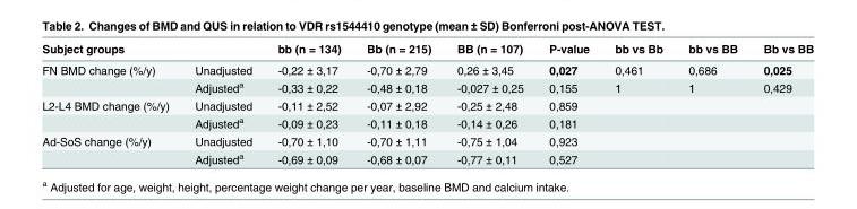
<table><thead><tr><td>Subject groups</td><td></td><td>bb (n = 134)</td><td>Bb (n = 215)</td><td>BB (n = 107)</td><td>P-value</td><td>bb vs Bb</td><td>bb vs BB</td><td>Bb vs BB</td></tr></thead><tbody><tr><td rowspan="2">FN BMD change (%/y)</td><td>Unadjusted</td><td>-0,22 ± 3,17</td><td>-0,70 ± 2,79</td><td>0,26 ± 3,45</td><td>0,027</td><td>0,461</td><td>0,686</td><td>0,025</td></tr><tr><td>Adjusted<sup>a</sup></td><td>-0,33 ± 0,22</td><td>-0,48 ± 0,18</td><td>-0,027 ± 0,25</td><td>0,155</td><td>1</td><td>1</td><td>0,429</td></tr><tr><td rowspan="2">L2-L4 BMD change (%/y)</td><td>Unadjusted</td><td>-0,11 ± 2,52</td><td>-0,07 ± 2,92</td><td>-0,25 ± 2,48</td><td>0,859</td><td></td><td></td><td></td></tr><tr><td>Adjusted<sup>a</sup></td><td>-0,09 ± 0,23</td><td>-0,11 ± 0,18</td><td>-0,14 ± 0,26</td><td>0,181</td><td></td><td></td><td></td></tr><tr><td rowspan="2">Ad-SoS change (%/y)</td><td>Unadjusted</td><td>-0,70 ± 1,10</td><td>-0,70 ± 1,11</td><td>-0,75 ± 1,04</td><td>0,923</td><td></td><td></td><td></td></tr><tr><td>Adjusted<sup>a</sup></td><td>-0,69 ± 0,09</td><td>-0,68 ± 0,07</td><td>-0,77 ± 0,11</td><td>0,527</td><td></td><td></td><td></td></tr></tbody></table>